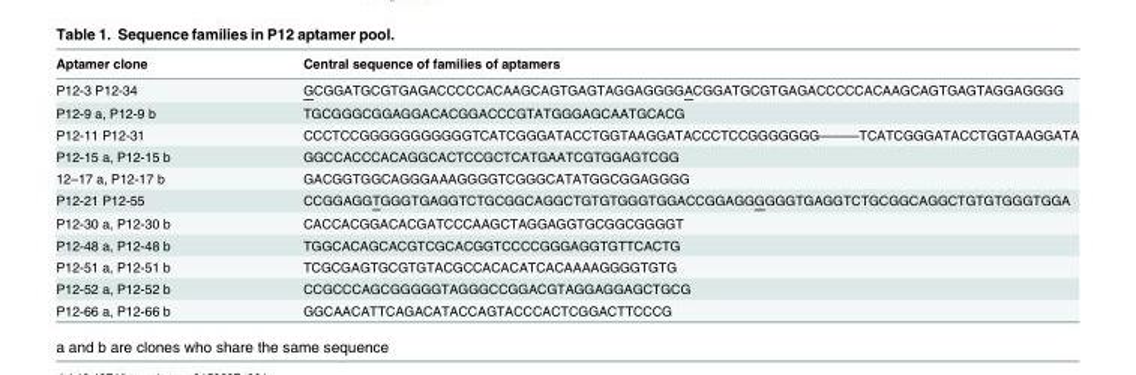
<table><thead><tr><td>Aptamer clone</td><td>Central sequence of families of aptamers</td></tr></thead><tbody><tr><td>P12-3 P12-34</td><td>GCGGATGCGTGAGACCCCCACAAGCAGTGAGTAGGAGGGGACGGATGCGTGAGACCCCCACAAGCAGTGAGTAGGAGGGG</td></tr><tr><td>P12-9 a, P12-9 b</td><td>TGCGGGCGGAGGACACGGACCCGTATGGGAGCAATGCACG</td></tr><tr><td>P12-11 P12-31</td><td>CCCTCCGGGGGGGGGGGTCATCGGGATACCTGGTAAGGATACCCTCCGGGGGGG———TCATCGGGATACCTGGTAAGGATA</td></tr><tr><td>P12-15 a, P12-15 b</td><td>GGCCACCCACAGGCACTCCGCTCATGAATCGTGGAGTCGG</td></tr><tr><td>12–17 a, P12-17 b</td><td>GACGGTGGCAGGGAAAGGGGTCGGGCATATGGCGGAGGGG</td></tr><tr><td>P12-21 P12-55</td><td>CCGGAGGTGGGTGAGGTCTGCGGCAGGCTGTGTGGGTGGACCGGAGGGGGGTGAGGTCTGCGGCAGGCTGTGTGGGTGGA</td></tr><tr><td>P12-30 a, P12-30 b</td><td>CACCACGGACACGATCCCAAGCTAGGAGGTGCGGCGGGGT</td></tr><tr><td>P12-48 a, P12-48 b</td><td>TGGCACAGCACGTCGCACGGTCCCCGGGAGGTGTTCACTG</td></tr><tr><td>P12-51 a, P12-51 b</td><td>TCGCGAGTGCGTGTACGCCACACATCACAAAAGGGGTGTG</td></tr><tr><td>P12-52 a, P12-52 b</td><td>CCGCCCAGCGGGGGTAGGGCCGGACGTAGGAGGAGCTGCG</td></tr><tr><td>P12-66 a, P12-66 b</td><td>GGCAACATTCAGACATACCAGTACCCACTCGGACTTCCCG</td></tr></tbody></table>